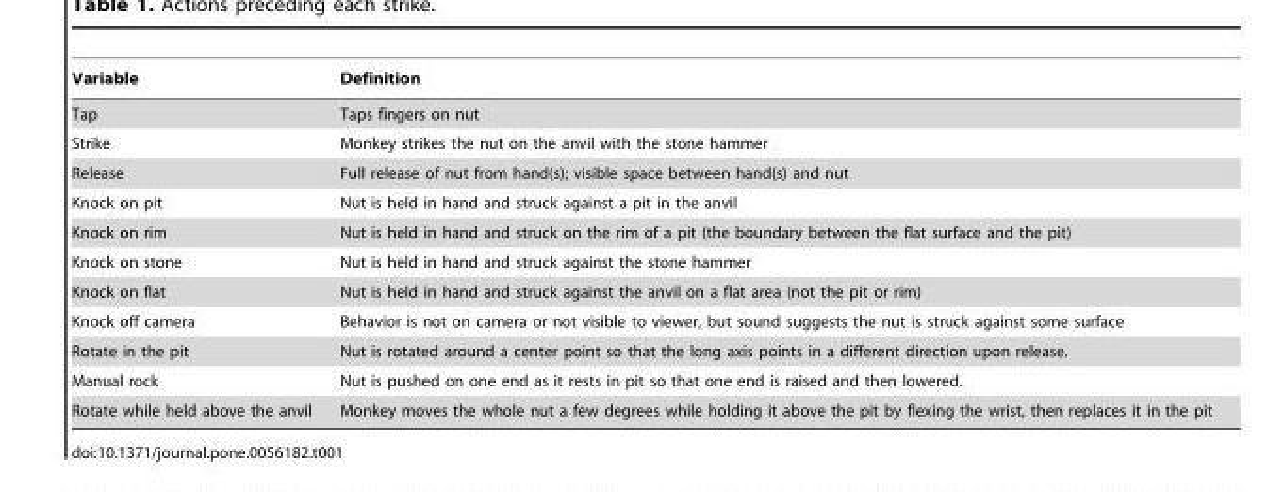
<table><thead><tr><td>Variable</td><td>Definition</td></tr></thead><tbody><tr><td>Tap</td><td>Taps fingers on nut</td></tr><tr><td>Strike</td><td>Monkey strikes the nut on the anvil with the stone hammer</td></tr><tr><td>Release</td><td>Full release of nut from hand(s); visible space between hand(s) and nut</td></tr><tr><td>Knock on pit</td><td>Nut is held in hand and struck against a pit in the anvil</td></tr><tr><td>Knock on rim</td><td>Nut is held in hand and struck on the rim of a pit (the boundary between the flat surface and the pit)</td></tr><tr><td>Knock on stone</td><td>Nut is held in hand and struck against the stone hammer</td></tr><tr><td>Knock on flat</td><td>Nut is held in hand and struck against the anvil on a flat area (not the pit or rim)</td></tr><tr><td>Knock off camera</td><td>Behavior is not on camera or not visible to viewer, but sound suggests the nut is struck against some surface</td></tr><tr><td>Rotate in the pit</td><td>Nut is rotated around a center point so that the long axis points in a different direction upon release.</td></tr><tr><td>Manual rock</td><td>Nut is pushed on one end as it rests in pit so that one end is raised and then lowered.</td></tr><tr><td>Rotate while held above the anvil</td><td>Monkey moves the whole nut a few degrees while holding it above the pit by flexing the wrist, then replaces it in the pit</td></tr></tbody></table>